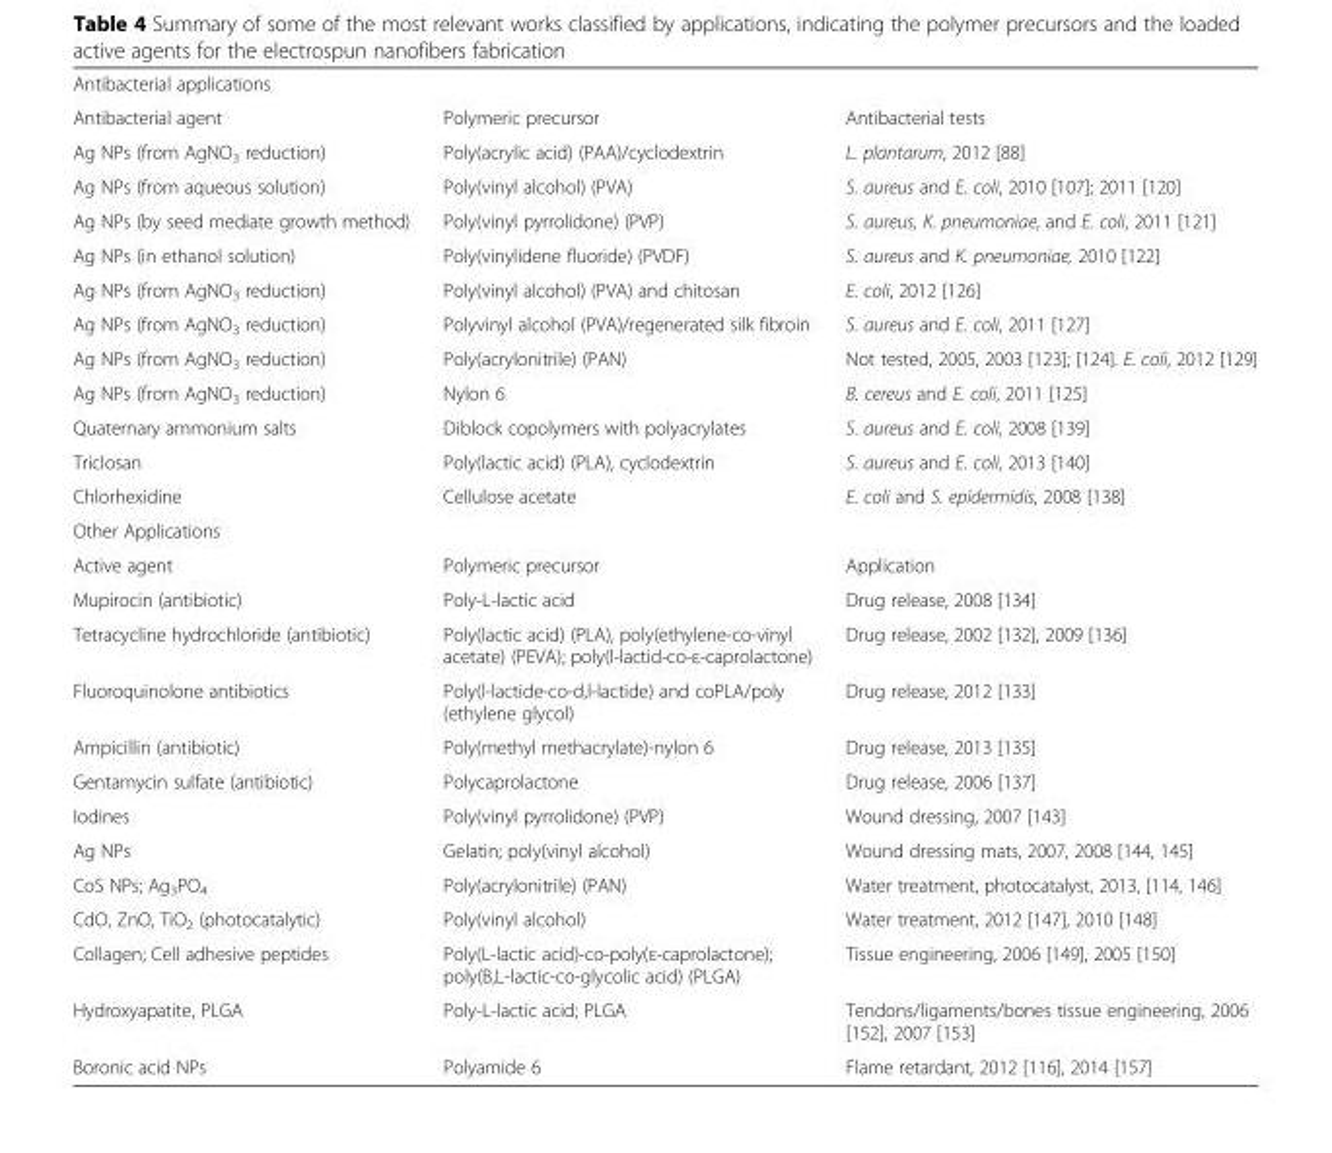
<table><tbody><tr><td colspan="3">Antibacterial applications</td></tr><tr><td>Antibacterial agent</td><td>Polymeric precursor</td><td>Antibacterial tests</td></tr><tr><td>Ag NPs (from AgNO<sub>3</sub> reduction)</td><td>Poly(acrylic acid) (PAA)/cyclodextrin</td><td>L. plantarum, 2012 [88]</td></tr><tr><td>Ag NPs (from aqueous solution)</td><td>Poly(vinyl alcohol) (PVA)</td><td>S. aureus and E. coli, 2010 [107]; 2011 [120]</td></tr><tr><td>Ag NPs (by seed mediate growth method)</td><td>Poly(vinyl pyrrolidone) (PVP)</td><td>S. aureus, K. pneumoniae, and E. coli, 2011 [121]</td></tr><tr><td>Ag NPs (in ethanol solution)</td><td>Poly(vinylidene fluoride) (PVDF)</td><td>S. aureus and K. pneumoniae, 2010 [122]</td></tr><tr><td>Ag NPs (from AgNO<sub>3</sub> reduction)</td><td>Poly(vinyl alcohol) (PVA) and chitosan</td><td>E. coli, 2012 [126]</td></tr><tr><td>Ag NPs (from AgNO<sub>3</sub> reduction)</td><td>Polyvinyl alcohol (PVA)/regenerated silk fibroin</td><td>S. aureus and E. coli, 2011 [127]</td></tr><tr><td>Ag NPs (from AgNO<sub>3</sub> reduction)</td><td>Poly(acrylonitrile) (PAN)</td><td>Not tested, 2005, 2003 [123]; [124]. E. coli, 2012 [129]</td></tr><tr><td>Ag NPs (from AgNO<sub>3</sub> reduction)</td><td>Nylon 6</td><td>B. cereus and E. coli, 2011 [125]</td></tr><tr><td>Quaternary ammonium salts</td><td>Diblock copolymers with polyacrylates</td><td>S. aureus and E. coli, 2008 [139]</td></tr><tr><td>Triclosan</td><td>Poly(lactic acid) (PLA), cyclodextrin</td><td>S. aureus and E. coli, 2013 [140]</td></tr><tr><td>Chlorhexidine</td><td>Cellulose acetate</td><td>E. coli and S. epidermidis, 2008 [138]</td></tr><tr><td colspan="3">Other Applications</td></tr><tr><td>Active agent</td><td>Polymeric precursor</td><td>Application</td></tr><tr><td>Mupirocin (antibiotic)</td><td>Poly-L-lactic acid</td><td>Drug release, 2008 [134]</td></tr><tr><td>Tetracycline hydrochloride (antibiotic)</td><td>Poly(lactic acid) (PLA), poly(ethylene-co-vinyl acetate) (PEVA); poly(l-lactid-co-ε-caprolactone)</td><td>Drug release, 2002 [132], 2009 [136]</td></tr><tr><td>Fluoroquinolone antibiotics</td><td>Poly(l-lactide-co-d,l-lactide) and coPLA/poly (ethylene glycol)</td><td>Drug release, 2012 [133]</td></tr><tr><td>Ampicillin (antibiotic)</td><td>Poly(methyl methacrylate)-nylon 6</td><td>Drug release, 2013 [135]</td></tr><tr><td>Gentamycin sulfate (antibiotic)</td><td>Polycaprolactone</td><td>Drug release, 2006 [137]</td></tr><tr><td>Iodines</td><td>Poly(vinyl pyrrolidone) (PVP)</td><td>Wound dressing, 2007 [143]</td></tr><tr><td>Ag NPs</td><td>Gelatin; poly(vinyl alcohol)</td><td>Wound dressing mats, 2007, 2008 [144, 145]</td></tr><tr><td>CoS NPs; Ag<sub>3</sub>PO<sub>4</sub></td><td>Poly(acrylonitrile) (PAN)</td><td>Water treatment, photocatalyst, 2013, [114, 146]</td></tr><tr><td>CdO, ZnO, TiO<sub>2</sub> (photocatalytic)</td><td>Poly(vinyl alcohol)</td><td>Water treatment, 2012 [147], 2010 [148]</td></tr><tr><td>Collagen; Cell adhesive peptides</td><td>Poly(L-lactic acid)-co-poly(ε-caprolactone); poly(B,L-lactic-co-glycolic acid) (PLGA)</td><td>Tissue engineering, 2006 [149], 2005 [150]</td></tr><tr><td>Hydroxyapatite, PLGA</td><td>Poly-L-lactic acid; PLGA</td><td>Tendons/ligaments/bones tissue engineering, 2006 [152], 2007 [153]</td></tr><tr><td>Boronic acid NPs</td><td>Polyamide 6</td><td>Flame retardant, 2012 [116], 2014 [157]</td></tr></tbody></table>